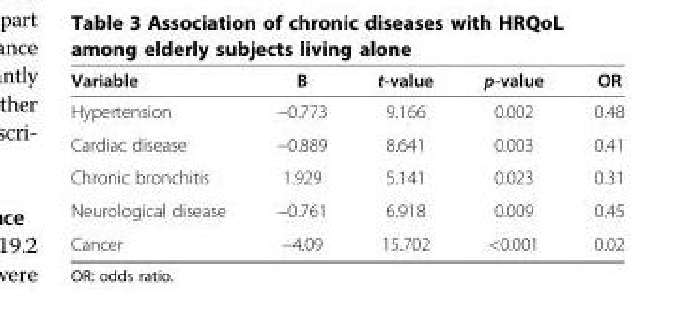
<table><thead><tr><td>Variable</td><td>B</td><td>t-value</td><td>p-value</td><td>OR</td></tr></thead><tbody><tr><td>Hypertension</td><td>−0.773</td><td>9.166</td><td>0.002</td><td>0.48</td></tr><tr><td>Cardiac disease</td><td>−0.889</td><td>8.641</td><td>0.003</td><td>0.41</td></tr><tr><td>Chronic bronchitis</td><td>1.929</td><td>5.141</td><td>0.023</td><td>0.31</td></tr><tr><td>Neurological disease</td><td>−0.761</td><td>6.918</td><td>0.009</td><td>0.45</td></tr><tr><td>Cancer</td><td>−4.09</td><td>15.702</td><td>&lt;0.001</td><td>0.02</td></tr></tbody></table>